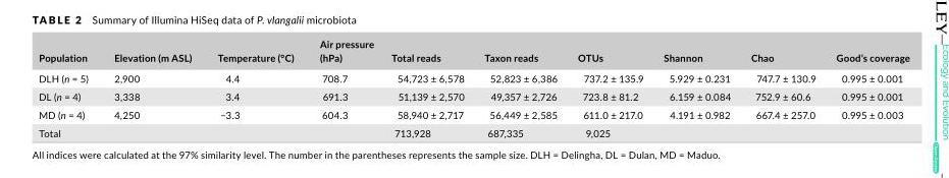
<table><thead><tr><td>Population</td><td>Elevation (m ASL)</td><td>Temperature (°C)</td><td>Air pressure (hPa)</td><td>Total reads</td><td>Taxon reads</td><td>OTUs</td><td>Shannon</td><td>Chao</td><td>Good’s coverage</td></tr></thead><tbody><tr><td>DLH (n = 5)</td><td>2,900</td><td>4.4</td><td>708.7</td><td>54,723 ± 6,578</td><td>52,823 ± 6,386</td><td>737.2 ± 135.9</td><td>5.929 ± 0.231</td><td>747.7 ± 130.9</td><td>0.995 ± 0.001</td></tr><tr><td>DL (n = 4)</td><td>3,338</td><td>3.4</td><td>691.3</td><td>51,139 ± 2,570</td><td>49,357 ± 2,726</td><td>723.8 ± 81.2</td><td>6.159 ± 0.084</td><td>752.9 ± 60.6</td><td>0.995 ± 0.001</td></tr><tr><td>MD (n = 4)</td><td>4,250</td><td>−3.3</td><td>604.3</td><td>58,940 ± 2,717</td><td>56,449 ± 2,585</td><td>611.0 ± 217.0</td><td>4.191 ± 0.982</td><td>667.4 ± 257.0</td><td>0.995 ± 0.003</td></tr><tr><td>Total</td><td></td><td></td><td></td><td>713,928</td><td>687,335</td><td>9,025</td><td></td><td></td><td></td></tr></tbody></table>